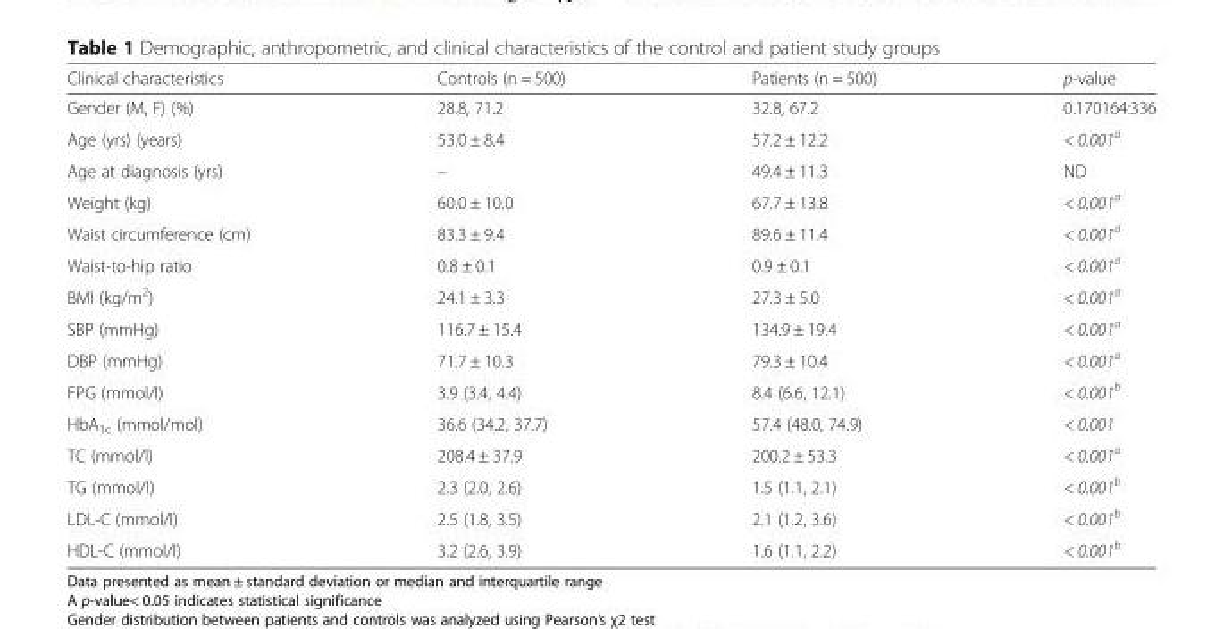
<table><thead><tr><td>Clinical characteristics</td><td>Controls (n = 500)</td><td>Patients (n = 500)</td><td>p-value</td></tr></thead><tbody><tr><td>Gender (M, F) (%)</td><td>28.8, 71.2</td><td>32.8, 67.2</td><td>0.170164:336</td></tr><tr><td>Age (yrs) (years)</td><td>53.0 ± 8.4</td><td>57.2 ± 12.2</td><td>&lt; 0.001<sup>a</sup></td></tr><tr><td>Age at diagnosis (yrs)</td><td>–</td><td>49.4 ± 11.3</td><td>ND</td></tr><tr><td>Weight (kg)</td><td>60.0 ± 10.0</td><td>67.7 ± 13.8</td><td>&lt; 0.001<sup>a</sup></td></tr><tr><td>Waist circumference (cm)</td><td>83.3 ± 9.4</td><td>89.6 ± 11.4</td><td>&lt; 0.001<sup>a</sup></td></tr><tr><td>Waist-to-hip ratio</td><td>0.8 ± 0.1</td><td>0.9 ± 0.1</td><td>&lt; 0.001<sup>a</sup></td></tr><tr><td>BMI (kg/m<sup>2</sup>)</td><td>24.1 ± 3.3</td><td>27.3 ± 5.0</td><td>&lt; 0.001<sup>a</sup></td></tr><tr><td>SBP (mmHg)</td><td>116.7 ± 15.4</td><td>134.9 ± 19.4</td><td>&lt; 0.001<sup>a</sup></td></tr><tr><td>DBP (mmHg)</td><td>71.7 ± 10.3</td><td>79.3 ± 10.4</td><td>&lt; 0.001<sup>a</sup></td></tr><tr><td>FPG (mmol/l)</td><td>3.9 (3.4, 4.4)</td><td>8.4 (6.6, 12.1)</td><td>&lt; 0.001<sup>b</sup></td></tr><tr><td>HbA<sub>1c</sub> (mmol/mol)</td><td>36.6 (34.2, 37.7)</td><td>57.4 (48.0, 74.9)</td><td>&lt; 0.001</td></tr><tr><td>TC (mmol/l)</td><td>208.4 ± 37.9</td><td>200.2 ± 53.3</td><td>&lt; 0.001<sup>a</sup></td></tr><tr><td>TG (mmol/l)</td><td>2.3 (2.0, 2.6)</td><td>1.5 (1.1, 2.1)</td><td>&lt; 0.001<sup>b</sup></td></tr><tr><td>LDL-C (mmol/l)</td><td>2.5 (1.8, 3.5)</td><td>2.1 (1.2, 3.6)</td><td>&lt; 0.001<sup>b</sup></td></tr><tr><td>HDL-C (mmol/l)</td><td>3.2 (2.6, 3.9)</td><td>1.6 (1.1, 2.2)</td><td>&lt; 0.001<sup>b</sup></td></tr></tbody></table>